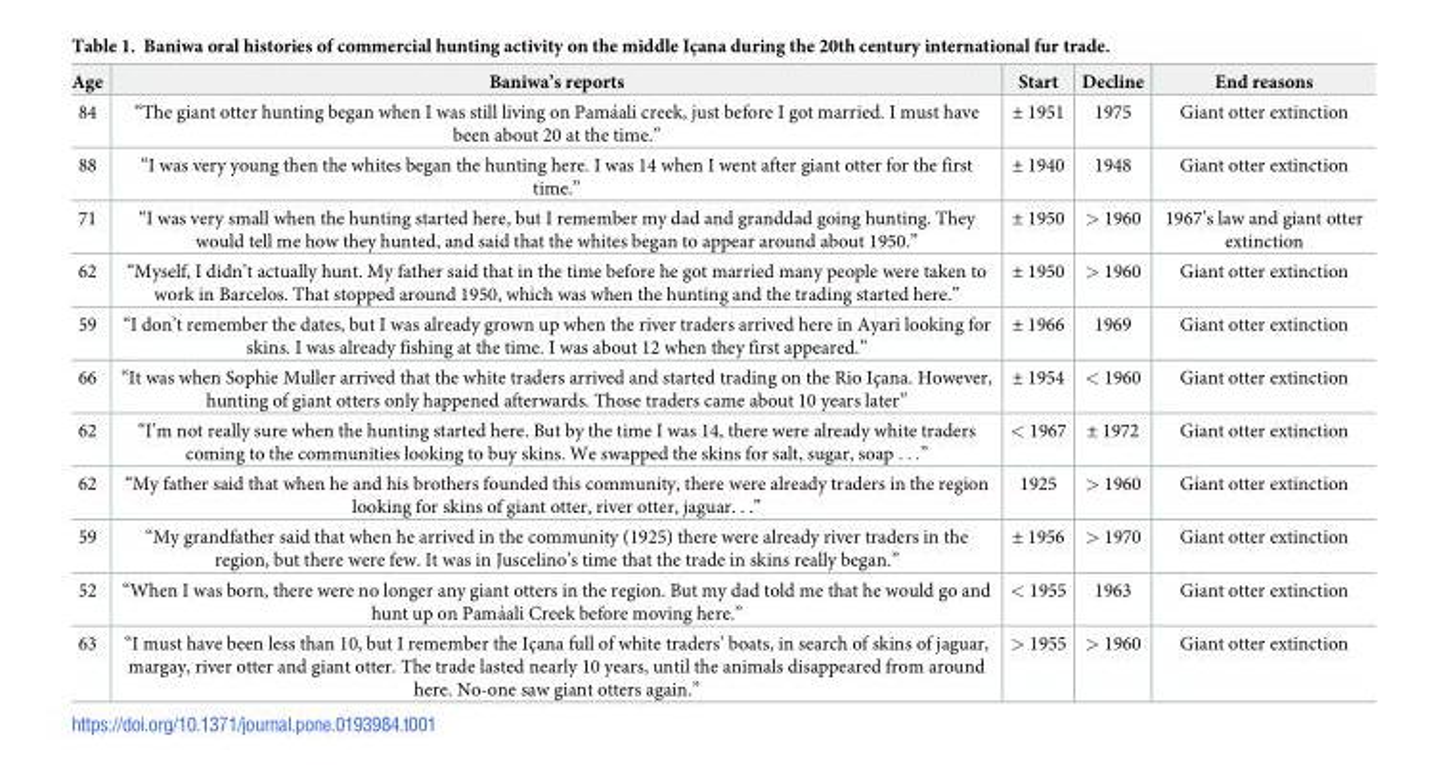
<table><thead><tr><td>Age</td><td>Baniwa’s reports</td><td>Start</td><td>Decline</td><td>End reasons</td></tr></thead><tbody><tr><td>84</td><td>“The giant otter hunting began when I was still living on Pama´ali creek, just before I got married. I must have been about 20 at the time.”</td><td>± 1951</td><td>1975</td><td>Giant otter extinction</td></tr><tr><td>88</td><td>“I was very young then the whites began the hunting here. I was 14 when I went after giant otter for the first time.”</td><td>± 1940</td><td>1948</td><td>Giant otter extinction</td></tr><tr><td>71</td><td>“I was very small when the hunting started here, but I remember my dad and granddad going hunting. They would tell me how they hunted, and said that the whites began to appear around about 1950.”</td><td>± 1950</td><td>&gt; 1960</td><td>1967’s law and giant otter extinction</td></tr><tr><td>62</td><td>“Myself, I didn’t actually hunt. My father said that in the time before he got married many people were taken to work in Barcelos. That stopped around 1950, which was when the hunting and the trading started here.”</td><td>± 1950</td><td>&gt; 1960</td><td>Giant otter extinction</td></tr><tr><td>59</td><td>“I don’t remember the dates, but I was already grown up when the river traders arrived here in Ayari looking for skins. I was already fishing at the time. I was about 12 when they first appeared.”</td><td>± 1966</td><td>1969</td><td>Giant otter extinction</td></tr><tr><td>66</td><td>“It was when Sophie Muller arrived that the white traders arrived and started trading on the Rio Ic¸ana. However, hunting of giant otters only happened afterwards. Those traders came about 10 years later”</td><td>± 1954</td><td>&lt; 1960</td><td>Giant otter extinction</td></tr><tr><td>62</td><td>“I’m not really sure when the hunting started here. But by the time I was 14, there were already white traders coming to the communities looking to buy skins. We swapped the skins for salt, sugar, soap . . .”</td><td>&lt; 1967</td><td>± 1972</td><td>Giant otter extinction</td></tr><tr><td>62</td><td>“My father said that when he and his brothers founded this community, there were already traders in the region looking for skins of giant otter, river otter, jaguar. . .”</td><td>1925</td><td>&gt; 1960</td><td>Giant otter extinction</td></tr><tr><td>59</td><td>“My grandfather said that when he arrived in the community (1925) there were already river traders in the region, but there were few. It was in Juscelino’s time that the trade in skins really began.”</td><td>± 1956</td><td>&gt; 1970</td><td>Giant otter extinction</td></tr><tr><td>52</td><td>“When I was born, there were no longer any giant otters in the region. But my dad told me that he would go and hunt up on Pama´ali Creek before moving here.”</td><td>&lt; 1955</td><td>1963</td><td>Giant otter extinction</td></tr><tr><td>63</td><td>“I must have been less than 10, but I remember the Ic¸ana full of white traders’ boats, in search of skins of jaguar, margay, river otter and giant otter. The trade lasted nearly 10 years, until the animals disappeared from around here. No-one saw giant otters again.”</td><td>&gt; 1955</td><td>&gt; 1960</td><td>Giant otter extinction</td></tr></tbody></table>